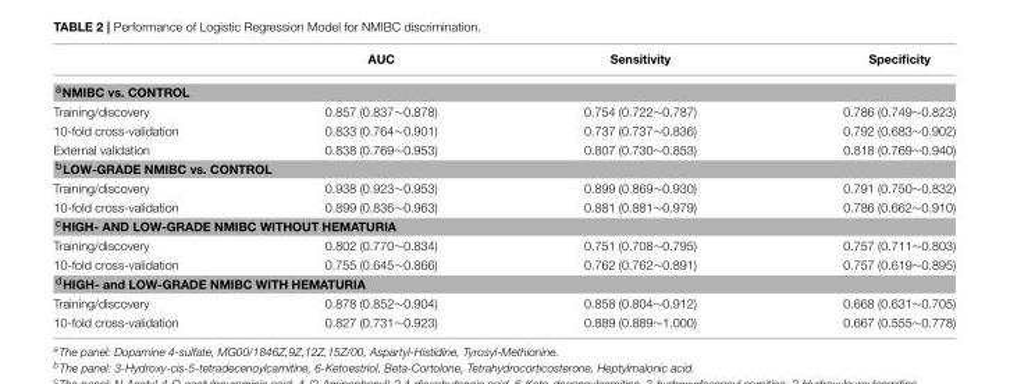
<table><thead><tr><td></td><td>AUC</td><td>Sensitivity</td><td>Specificity</td></tr></thead><tbody><tr><td colspan="4">aNMIBC vs. CONTROL</td></tr><tr><td>Training/discovery</td><td>0.857 (0.837∼0.878)</td><td>0.754 (0.722∼0.787)</td><td>0.786 (0.749∼0.823)</td></tr><tr><td>10-fold cross-validation</td><td>0.833 (0.764∼0.901)</td><td>0.737 (0.737∼0.836)</td><td>0.792 (0.683∼0.902)</td></tr><tr><td>External validation</td><td>0.838 (0.769∼0.953)</td><td>0.807 (0.730∼0.853)</td><td>0.818 (0.769∼0.940)</td></tr><tr><td colspan="4">bLOW-GRADE NMIBC vs. CONTROL</td></tr><tr><td>Training/discovery</td><td>0.938 (0.923∼0.953)</td><td>0.899 (0.869∼0.930)</td><td>0.791 (0.750∼0.832)</td></tr><tr><td>10-fold cross-validation</td><td>0.899 (0.836∼0.963)</td><td>0.881 (0.881∼0.979)</td><td>0.786 (0.662∼0.910)</td></tr><tr><td colspan="4">cHIGH- AND LOW-GRADE NMIBC WITHOUT HEMATURIA</td></tr><tr><td>Training/discovery</td><td>0.802 (0.770∼0.834)</td><td>0.751 (0.708∼0.795)</td><td>0.757 (0.711∼0.803)</td></tr><tr><td>10-fold cross-validation</td><td>0.755 (0.645∼0.866)</td><td>0.762 (0.762∼0.891)</td><td>0.757 (0.619∼0.895)</td></tr><tr><td colspan="4">dHIGH- and LOW-GRADE NMIBC WITH HEMATURIA</td></tr><tr><td>Training/discovery</td><td>0.878 (0.852∼0.904)</td><td>0.858 (0.804∼0.912)</td><td>0.668 (0.631∼0.705)</td></tr><tr><td>10-fold cross-validation</td><td>0.827 (0.731∼0.923)</td><td>0.889 (0.889∼1.000)</td><td>0.667 (0.555∼0.778)</td></tr></tbody></table>